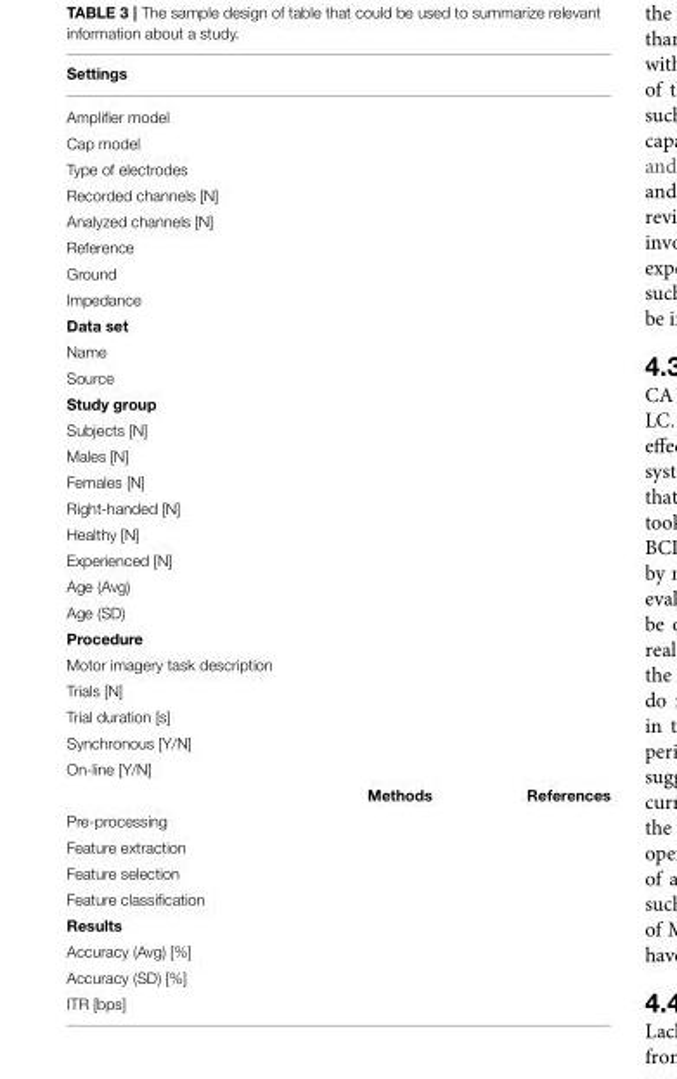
<table><thead><tr><td colspan="3">Settings</td></tr></thead><tbody><tr><td colspan="3">Amplifier model</td></tr><tr><td colspan="3">Cap model</td></tr><tr><td colspan="3">Type of electrodes</td></tr><tr><td colspan="3">Recorded channels [N]</td></tr><tr><td colspan="3">Analyzed channels [N]</td></tr><tr><td colspan="3">Reference</td></tr><tr><td colspan="3">Ground</td></tr><tr><td colspan="3">Impedance</td></tr><tr><td colspan="3">Data set</td></tr><tr><td colspan="3">Name</td></tr><tr><td colspan="3">Source</td></tr><tr><td colspan="3">Study group</td></tr><tr><td colspan="3">Subjects [N]</td></tr><tr><td colspan="3">Males [N]</td></tr><tr><td colspan="3">Females [N]</td></tr><tr><td colspan="3">Right-handed [N]</td></tr><tr><td colspan="3">Healthy [N]</td></tr><tr><td colspan="3">Experienced [N]</td></tr><tr><td colspan="3">Age (Avg)</td></tr><tr><td colspan="3">Age (SD)</td></tr><tr><td colspan="3">Procedure</td></tr><tr><td colspan="3">Motor imagery task description</td></tr><tr><td colspan="3">Trials [N]</td></tr><tr><td colspan="3">Trial duration [s]</td></tr><tr><td colspan="3">Synchronous [Y/N]</td></tr><tr><td colspan="3">On-line [Y/N]</td></tr><tr><td></td><td>Methods</td><td>References</td></tr><tr><td colspan="3">Pre-processing</td></tr><tr><td colspan="3">Feature extraction</td></tr><tr><td colspan="3">Feature selection</td></tr><tr><td colspan="3">Feature classification</td></tr><tr><td colspan="3">Results</td></tr><tr><td colspan="3">Accuracy (Avg) [%]</td></tr><tr><td colspan="3">Accuracy (SD) [%]</td></tr><tr><td colspan="2">ITR [bps]</td><td></td></tr></tbody></table>